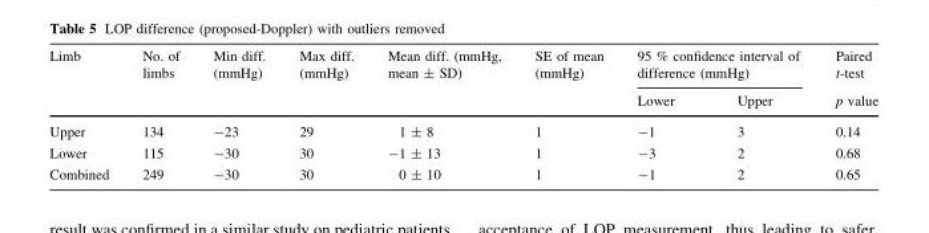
<table><thead><tr><td rowspan="2">Limb</td><td rowspan="2">No. of limbs</td><td rowspan="2">Min diff. (mmHg)</td><td rowspan="2">Max diff. (mmHg)</td><td rowspan="2">Mean diff. (mmHg, mean ± SD)</td><td rowspan="2">SE of mean (mmHg)</td><td colspan="2">95 % confidence interval of difference (mmHg)</td><td rowspan="2">Paired t-test p value</td></tr><tr><td>Lower</td><td>Upper</td></tr></thead><tbody><tr><td>Upper</td><td>134</td><td>-23</td><td>29</td><td>1 ± 8</td><td>1</td><td>-1</td><td>3</td><td>0.14</td></tr><tr><td>Lower</td><td>115</td><td>-30</td><td>30</td><td>-1 ± 13</td><td>1</td><td>-3</td><td>2</td><td>0.68</td></tr><tr><td>Combined</td><td>249</td><td>-30</td><td>30</td><td>0 ± 10</td><td>1</td><td>-1</td><td>2</td><td>0.65</td></tr></tbody></table>